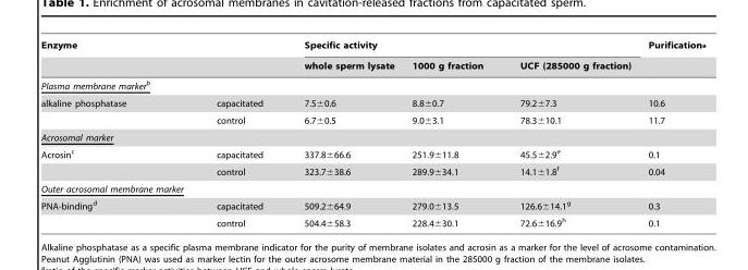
<table><thead><tr><td colspan="2">Enzyme</td><td colspan="3">Specific activity</td><td rowspan="2">Purification<sup>a</sup></td></tr><tr><td></td><td></td><td>whole sperm lysate</td><td>1000 g fraction</td><td>UCF (285000 g fraction)</td></tr></thead><tbody><tr><td colspan="6">Plasma membrane markerb</td></tr><tr><td rowspan="2">alkaline phosphatase</td><td>capacitated</td><td>7.5±0.6</td><td>8.8±0.7</td><td>79.2±7.3</td><td>10.6</td></tr><tr><td>control</td><td>6.7±0.5</td><td>9.0±3.1</td><td>78.3±10.1</td><td>11.7</td></tr><tr><td colspan="6">Acrosomal marker</td></tr><tr><td rowspan="2">Acrosin<sup>c</sup></td><td>capacitated</td><td>337.8±66.6</td><td>251.9±11.8</td><td>45.5±2.9<sup>e</sup></td><td>0.1</td></tr><tr><td>control</td><td>323.7±38.6</td><td>289.9±34.1</td><td>14.1±1.8<sup>f</sup></td><td>0.04</td></tr><tr><td colspan="6">Outer acrosomal membrane marker</td></tr><tr><td rowspan="2">PNA-binding<sup>d</sup></td><td>capacitated</td><td>509.2±64.9</td><td>279.0±13.5</td><td>126.6±14.1<sup>g</sup></td><td>0.3</td></tr><tr><td>control</td><td>504.4±58.3</td><td>228.4±30.1</td><td>72.6±16.9<sup>h</sup></td><td>0.1</td></tr></tbody></table>